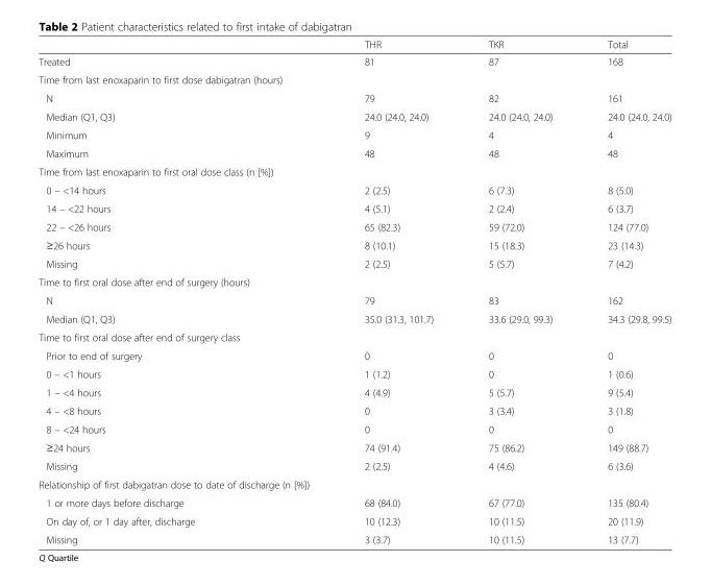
<table><thead><tr><td></td><td>THR</td><td>TKR</td><td>Total</td></tr></thead><tbody><tr><td>Treated</td><td>81</td><td>87</td><td>168</td></tr><tr><td colspan="4">Time from last enoxaparin to first dose dabigatran (hours)</td></tr><tr><td>N</td><td>79</td><td>82</td><td>161</td></tr><tr><td>Median (Q1, Q3)</td><td>24.0 (24.0, 24.0)</td><td>24.0 (24.0, 24.0)</td><td>24.0 (24.0, 24.0)</td></tr><tr><td>Minimum</td><td>9</td><td>4</td><td>4</td></tr><tr><td>Maximum</td><td>48</td><td>48</td><td>48</td></tr><tr><td colspan="4">Time from last enoxaparin to first oral dose class (n [%])</td></tr><tr><td>0 – &lt;14 hours</td><td>2 (2.5)</td><td>6 (7.3)</td><td>8 (5.0)</td></tr><tr><td>14 – &lt;22 hours</td><td>4 (5.1)</td><td>2 (2.4)</td><td>6 (3.7)</td></tr><tr><td>22 – &lt;26 hours</td><td>65 (82.3)</td><td>59 (72.0)</td><td>124 (77.0)</td></tr><tr><td>≥26 hours</td><td>8 (10.1)</td><td>15 (18.3)</td><td>23 (14.3)</td></tr><tr><td>Missing</td><td>2 (2.5)</td><td>5 (5.7)</td><td>7 (4.2)</td></tr><tr><td colspan="4">Time to first oral dose after end of surgery (hours)</td></tr><tr><td>N</td><td>79</td><td>83</td><td>162</td></tr><tr><td>Median (Q1, Q3)</td><td>35.0 (31.3, 101.7)</td><td>33.6 (29.0, 99.3)</td><td>34.3 (29.8, 99.5)</td></tr><tr><td colspan="4">Time to first oral dose after end of surgery class</td></tr><tr><td>Prior to end of surgery</td><td>0</td><td>0</td><td>0</td></tr><tr><td>0 – &lt;1 hours</td><td>1 (1.2)</td><td>0</td><td>1 (0.6)</td></tr><tr><td>1 – &lt;4 hours</td><td>4 (4.9)</td><td>5 (5.7)</td><td>9 (5.4)</td></tr><tr><td>4 – &lt;8 hours</td><td>0</td><td>3 (3.4)</td><td>3 (1.8)</td></tr><tr><td>8 – &lt;24 hours</td><td>0</td><td>0</td><td>0</td></tr><tr><td>≥24 hours</td><td>74 (91.4)</td><td>75 (86.2)</td><td>149 (88.7)</td></tr><tr><td>Missing</td><td>2 (2.5)</td><td>4 (4.6)</td><td>6 (3.6)</td></tr><tr><td colspan="4">Relationship of first dabigatran dose to date of discharge (n [%])</td></tr><tr><td>1 or more days before discharge</td><td>68 (84.0)</td><td>67 (77.0)</td><td>135 (80.4)</td></tr><tr><td>On day of, or 1 day after, discharge</td><td>10 (12.3)</td><td>10 (11.5)</td><td>20 (11.9)</td></tr><tr><td>Missing</td><td>3 (3.7)</td><td>10 (11.5)</td><td>13 (7.7)</td></tr></tbody></table>